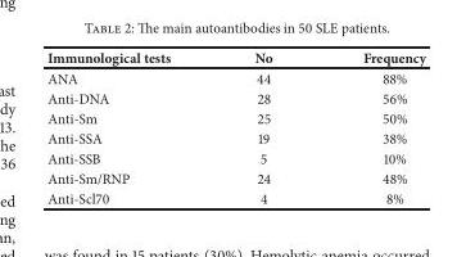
<table><thead><tr><td>Immunological tests</td><td>No</td><td>Frequency</td></tr></thead><tbody><tr><td>ANA</td><td>44</td><td>88%</td></tr><tr><td>Anti-DNA</td><td>28</td><td>56%</td></tr><tr><td>Anti-Sm</td><td>25</td><td>50%</td></tr><tr><td>Anti-SSA</td><td>19</td><td>38%</td></tr><tr><td>Anti-SSB</td><td>5</td><td>10%</td></tr><tr><td>Anti-Sm/RNP</td><td>24</td><td>48%</td></tr><tr><td>Anti-Scl70</td><td>4</td><td>8%</td></tr></tbody></table>